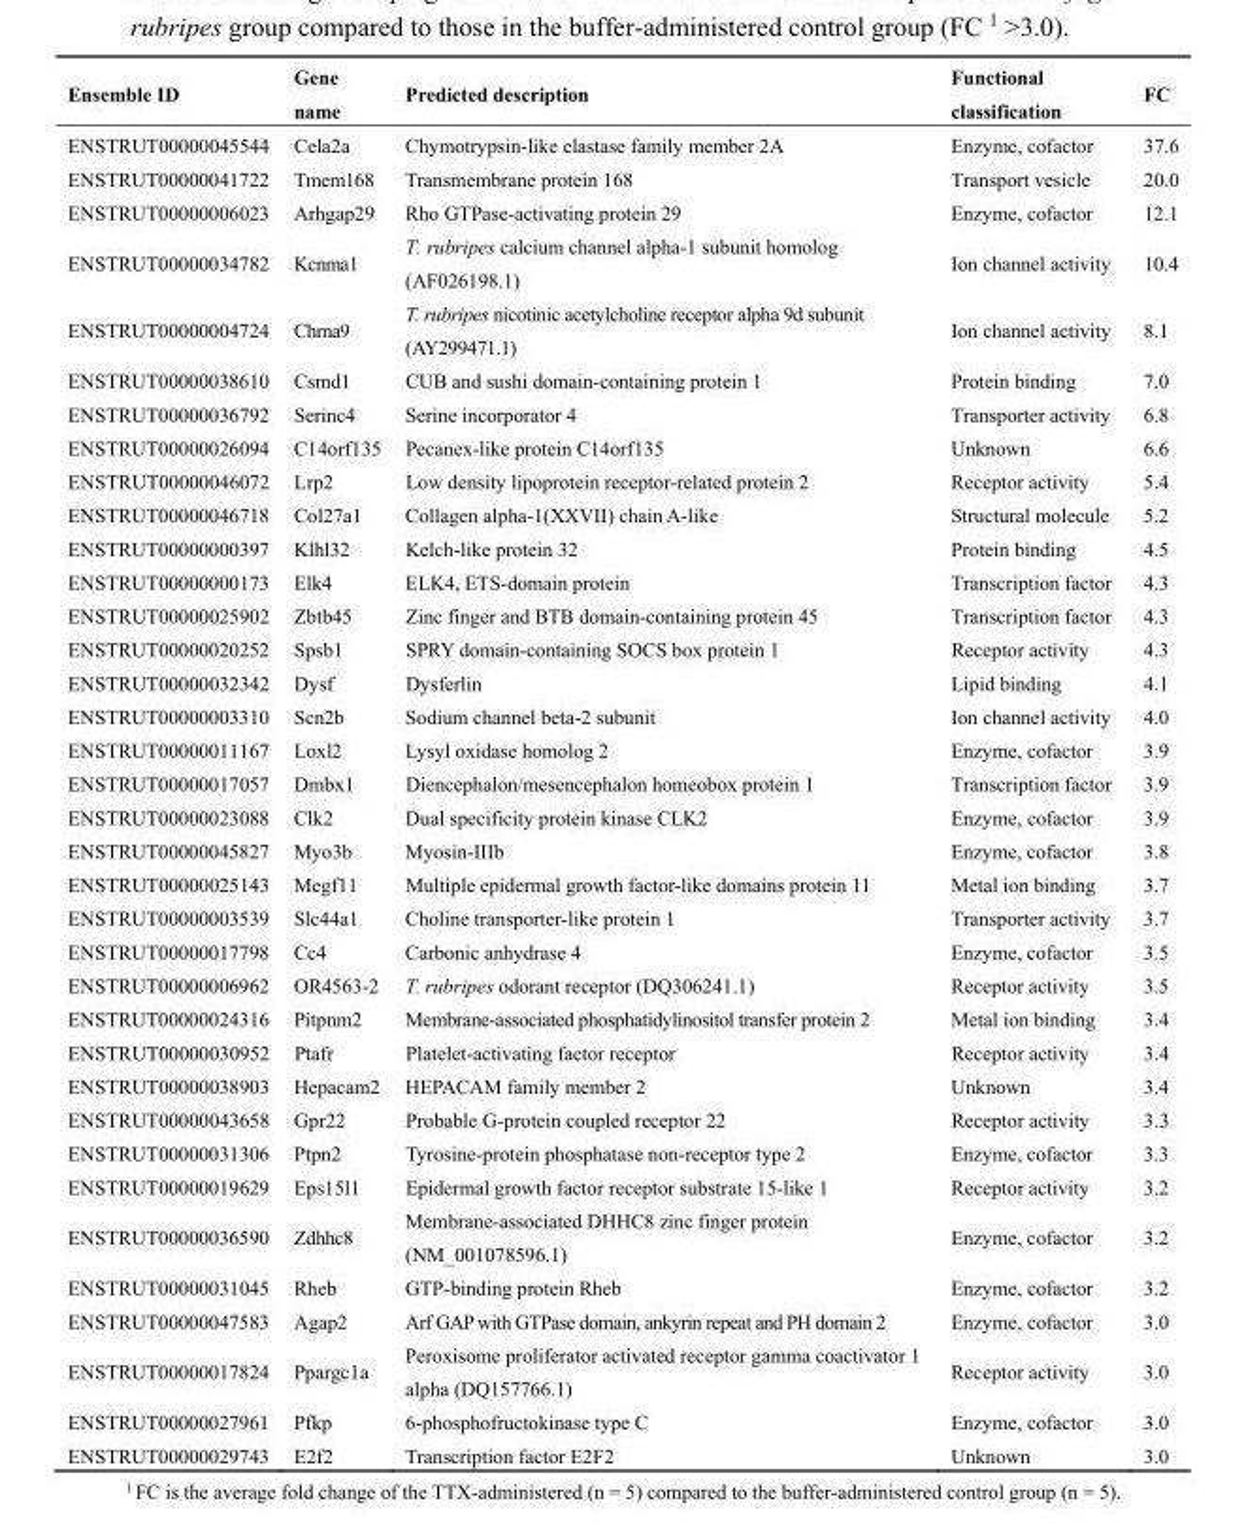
<table><thead><tr><td>Ensemble ID</td><td>Gene name</td><td>Predicted description</td><td>Functional classification</td><td>FC</td></tr></thead><tbody><tr><td>ENSTRUT00000045544</td><td>Cela2a</td><td>Chymotrypsin-like elastase family member 2A</td><td>Enzyme, cofactor</td><td>37.6</td></tr><tr><td>ENSTRUT00000041722</td><td>Tmem168</td><td>Transmembrane protein 168</td><td>Transport vesicle</td><td>20.0</td></tr><tr><td>ENSTRUT00000006023</td><td>Arhgap29</td><td>Rho GTPase-activating protein 29</td><td>Enzyme, cofactor</td><td>12.1</td></tr><tr><td>ENSTRUT00000034782</td><td>Kcnma1</td><td>T. rubripes calcium channel alpha-1 subunit homolog (AF026198.1)</td><td>Ion channel activity</td><td>10.4</td></tr><tr><td>ENSTRUT00000004724</td><td>Chrna9</td><td>T. rubripes nicotinic acetylcholine receptor alpha 9d subunit (AY299471.1)</td><td>Ion channel activity</td><td>8.1</td></tr><tr><td>ENSTRUT00000038610</td><td>Csmd1</td><td>CUB and sushi domain-containing protein 1</td><td>Protein binding</td><td>7.0</td></tr><tr><td>ENSTRUT00000036792</td><td>Serinc4</td><td>Serine incorporator 4</td><td>Transporter activity</td><td>6.8</td></tr><tr><td>ENSTRUT00000026094</td><td>C14orf135</td><td>Pecanex-like protein C14orf135</td><td>Unknown</td><td>6.6</td></tr><tr><td>ENSTRUT00000046072</td><td>Lrp2</td><td>Low density lipoprotein receptor-related protein 2</td><td>Receptor activity</td><td>5.4</td></tr><tr><td>ENSTRUT00000046718</td><td>Col27a1</td><td>Collagen alpha-1(XXVII) chain A-like</td><td>Structural molecule</td><td>5.2</td></tr><tr><td>ENSTRUT00000000397</td><td>Klhl32</td><td>Kelch-like protein 32</td><td>Protein binding</td><td>4.5</td></tr><tr><td>ENSTRUT00000000173</td><td>Elk4</td><td>ELK4, ETS-domain protein</td><td>Transcription factor</td><td>4.3</td></tr><tr><td>ENSTRUT00000025902</td><td>Zbtb45</td><td>Zinc finger and BTB domain-containing protein 45</td><td>Transcription factor</td><td>4.3</td></tr><tr><td>ENSTRUT00000020252</td><td>Spsb1</td><td>SPRY domain-containing SOCS box protein 1</td><td>Receptor activity</td><td>4.3</td></tr><tr><td>ENSTRUT00000032342</td><td>Dysf</td><td>Dysferlin</td><td>Lipid binding</td><td>4.1</td></tr><tr><td>ENSTRUT00000003310</td><td>Scn2b</td><td>Sodium channel beta-2 subunit</td><td>Ion channel activity</td><td>4.0</td></tr><tr><td>ENSTRUT00000011167</td><td>Loxl2</td><td>Lysyl oxidase homolog 2</td><td>Enzyme, cofactor</td><td>3.9</td></tr><tr><td>ENSTRUT00000017057</td><td>Dmbx1</td><td>Diencephalon/mesencephalon homeobox protein 1</td><td>Transcription factor</td><td>3.9</td></tr><tr><td>ENSTRUT00000023088</td><td>Clk2</td><td>Dual specificity protein kinase CLK2</td><td>Enzyme, cofactor</td><td>3.9</td></tr><tr><td>ENSTRUT00000045827</td><td>Myo3b</td><td>Myosin-IIIb</td><td>Enzyme, cofactor</td><td>3.8</td></tr><tr><td>ENSTRUT00000025143</td><td>Megf11</td><td>Multiple epidermal growth factor-like domains protein 11</td><td>Metal ion binding</td><td>3.7</td></tr><tr><td>ENSTRUT00000003539</td><td>Slc44a1</td><td>Choline transporter-like protein 1</td><td>Transporter activity</td><td>3.7</td></tr><tr><td>ENSTRUT00000017798</td><td>Cc4</td><td>Carbonic anhydrase 4</td><td>Enzyme, cofactor</td><td>3.5</td></tr><tr><td>ENSTRUT00000006962</td><td>OR4563-2</td><td>T. rubripes odorant receptor (DQ306241.1)</td><td>Receptor activity</td><td>3.5</td></tr><tr><td>ENSTRUT00000024316</td><td>Pitpnm2</td><td>Membrane-associated phosphatidylinositol transfer protein 2</td><td>Metal ion binding</td><td>3.4</td></tr><tr><td>ENSTRUT00000030952</td><td>Ptafr</td><td>Platelet-activating factor receptor</td><td>Receptor activity</td><td>3.4</td></tr><tr><td>ENSTRUT00000038903</td><td>Hepacam2</td><td>HEPACAM family member 2</td><td>Unknown</td><td>3.4</td></tr><tr><td>ENSTRUT00000043658</td><td>Gpr22</td><td>Probable G-protein coupled receptor 22</td><td>Receptor activity</td><td>3.3</td></tr><tr><td>ENSTRUT00000031306</td><td>Ptpn2</td><td>Tyrosine-protein phosphatase non-receptor type 2</td><td>Enzyme, cofactor</td><td>3.3</td></tr><tr><td>ENSTRUT00000019629</td><td>Eps15l1</td><td>Epidermal growth factor receptor substrate 15-like 1</td><td>Receptor activity</td><td>3.2</td></tr><tr><td>ENSTRUT00000036590</td><td>Zdhhc8</td><td>Membrane-associated DHHC8 zinc finger protein (NM_001078596.1)</td><td>Enzyme, cofactor</td><td>3.2</td></tr><tr><td>ENSTRUT00000031045</td><td>Rheb</td><td>GTP-binding protein Rheb</td><td>Enzyme, cofactor</td><td>3.2</td></tr><tr><td>ENSTRUT00000047583</td><td>Agap2</td><td>Arf GAP with GTPase domain, ankyrin repeat and PH domain 2</td><td>Enzyme, cofactor</td><td>3.0</td></tr><tr><td>ENSTRUT00000017824</td><td>Ppargc1a</td><td>Peroxisome proliferator activated receptor gamma coactivator 1 alpha (DQ157766.1)</td><td>Receptor activity</td><td>3.0</td></tr><tr><td>ENSTRUT00000027961</td><td>Pfkp</td><td>6-phosphofructokinase type C</td><td>Enzyme, cofactor</td><td>3.0</td></tr><tr><td>ENSTRUT00000029743</td><td>E2f2</td><td>Transcription factor E2F2</td><td>Unknown</td><td>3.0</td></tr></tbody></table>